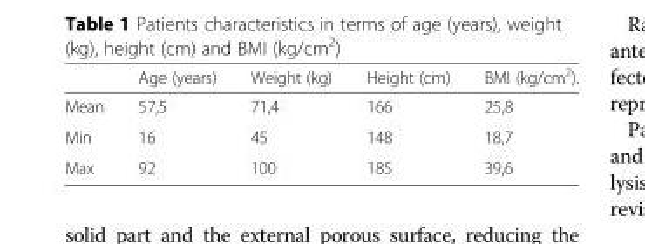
<table><thead><tr><td></td><td>Age (years)</td><td>Weight (kg)</td><td>Height (cm)</td><td>BMI (kg/cm<sup>2</sup>).</td></tr></thead><tbody><tr><td>Mean</td><td>57,5</td><td>71,4</td><td>166</td><td>25,8</td></tr><tr><td>Min</td><td>16</td><td>45</td><td>148</td><td>18,7</td></tr><tr><td>Max</td><td>92</td><td>100</td><td>185</td><td>39,6</td></tr></tbody></table>